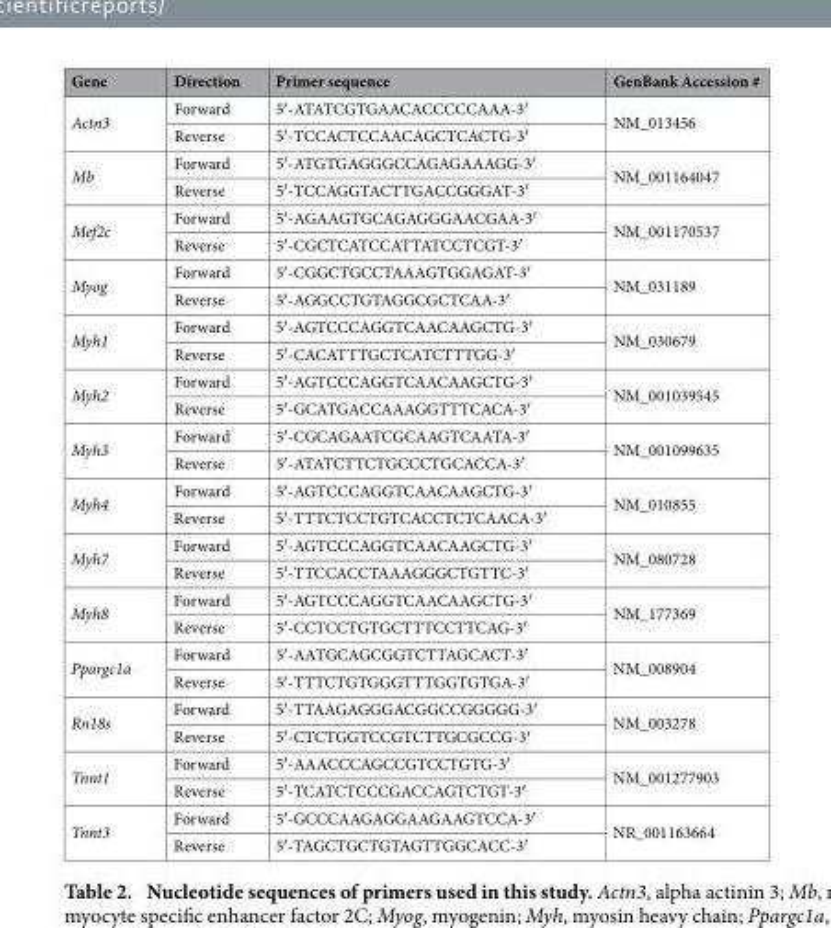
<table><thead><tr><td>Gene</td><td>Direction</td><td>Primer sequence</td><td>GenBank Accession #</td></tr></thead><tbody><tr><td rowspan="2">Actn3</td><td>Forward</td><td>5′ -ATATCGTGAACACCCCCAAA-3′</td><td rowspan="2">NM_013456</td></tr><tr><td>Reverse</td><td>5′ -TCCACTCCAACAGCTCACTG-3′</td></tr><tr><td rowspan="2">Mb</td><td>Forward</td><td>5′ -ATGTGAGGGCCAGAGAAAGG-3′</td><td rowspan="2">NM_001164047</td></tr><tr><td>Reverse</td><td>5′ -TCCAGGTACTTGACCGGGAT-3′</td></tr><tr><td rowspan="2">Mef2c</td><td>Forward</td><td>5′ -AGAAGTGCAGAGGGAACGAA-3′</td><td rowspan="2">NM_001170537</td></tr><tr><td>Reverse</td><td>5′ -CGCTCATCCATTATCCTCGT-3′</td></tr><tr><td rowspan="2">Myog</td><td>Forward</td><td>5′ -CGGCTGCCTAAAGTGGAGAT-3′</td><td rowspan="2">NM_031189</td></tr><tr><td>Reverse</td><td>5′ -AGGCCTGTAGGCGCTCAA-3′</td></tr><tr><td rowspan="2">Myh1</td><td>Forward</td><td>5′ -AGTCCCAGGTCAACAAGCTG-3′</td><td rowspan="2">NM_030679</td></tr><tr><td>Reverse</td><td>5′ -CACATTTGCTCATCTTTGG-3′</td></tr><tr><td rowspan="2">Myh2</td><td>Forward</td><td>5′ -AGTCCCAGGTCAACAAGCTG-3′</td><td rowspan="2">NM_001039545</td></tr><tr><td>Reverse</td><td>5′ -GCATGACCAAAGGTTTCACA-3′</td></tr><tr><td rowspan="2">Myh3</td><td>Forward</td><td>5′ -CGCAGAATCGCAAGTCAATA-3′</td><td rowspan="2">NM_001099635</td></tr><tr><td>Reverse</td><td>5′ -ATATCTTCTGCCCTGCACCA-3′</td></tr><tr><td rowspan="2">Myh4</td><td>Forward</td><td>5′ -AGTCCCAGGTCAACAAGCTG-3′</td><td rowspan="2">NM_010855</td></tr><tr><td>Reverse</td><td>5′ -TTTCTCCTGTCACCTCTCAACA-3′</td></tr><tr><td rowspan="2">Myh7</td><td>Forward</td><td>5′ -AGTCCCAGGTCAACAAGCTG-3′</td><td rowspan="2">NM_080728</td></tr><tr><td>Reverse</td><td>5′ -TTCCACCTAAAGGGCTGTTC-3′</td></tr><tr><td rowspan="2">Myh8</td><td>Forward</td><td>5′ -AGTCCCAGGTCAACAAGCTG-3′</td><td rowspan="2">NM_177369</td></tr><tr><td>Reverse</td><td>5′ -CCTCCTGTGCTTTCCTTCAG-3′</td></tr><tr><td rowspan="2">Ppargc1a</td><td>Forward</td><td>5′ -AATGCAGCGGTCTTAGCACT-3′</td><td rowspan="2">NM_008904</td></tr><tr><td>Reverse</td><td>5′ -TTTCTGTGGGTTTGGTGTGA-3′</td></tr><tr><td rowspan="2">Rn18s</td><td>Forward</td><td>5′ -TTAAGAGGGACGGCCGGGGG-3′</td><td rowspan="2">NM_003278</td></tr><tr><td>Reverse</td><td>5′ -CTCTGGTCCGTCTTGCGCCG-3′</td></tr><tr><td rowspan="2">Tnnt1</td><td>Forward</td><td>5′ -AAACCCAGCCGTCCTGTG-3′</td><td rowspan="2">NM_001277903</td></tr><tr><td>Reverse</td><td>5′ -TCATCTCCCGACCAGTCTGT-3′</td></tr><tr><td rowspan="2">Tnnt3</td><td>Forward</td><td>5′ -GCCCAAGAGGAAGAAGTCCA-3′</td><td rowspan="2">NR_001163664</td></tr><tr><td>Reverse</td><td>5′ -TAGCTGCTGTAGTTGGCACC-3′</td></tr></tbody></table>